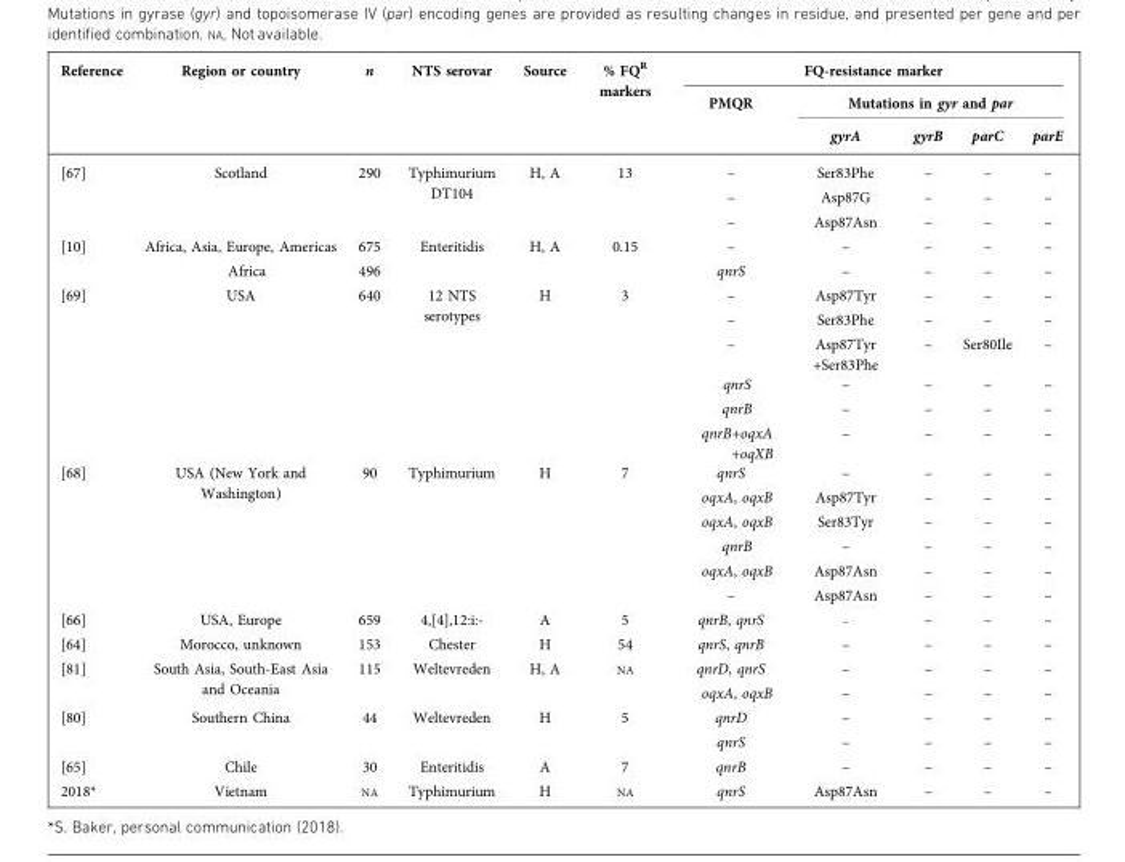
<table><thead><tr><td rowspan="3">Reference</td><td rowspan="3">Region or country</td><td rowspan="3">n</td><td rowspan="3">NTS serovar</td><td rowspan="3">Source</td><td rowspan="3">% FQ<sup>R</sup> markers</td><td colspan="5">FQ-resistance marker</td></tr><tr><td rowspan="2">PMQR</td><td colspan="4">Mutations in gyr and par</td></tr><tr><td>gyrA</td><td>gyrB</td><td>parC</td><td>parE</td></tr></thead><tbody><tr><td rowspan="3">[67]</td><td rowspan="3">Scotland</td><td rowspan="3">290</td><td rowspan="3">Typhimurium DT104</td><td rowspan="3">H, A</td><td rowspan="3">13</td><td>–</td><td>Ser83Phe</td><td>–</td><td>–</td><td>–</td></tr><tr><td>–</td><td>Asp87G</td><td>–</td><td>–</td><td>–</td></tr><tr><td>–</td><td>Asp87Asn</td><td>–</td><td>–</td><td>–</td></tr><tr><td rowspan="2">[10]</td><td>Africa, Asia, Europe, Americas</td><td>675</td><td rowspan="2">Enteritidis</td><td rowspan="2">H, A</td><td rowspan="2">0.15</td><td>–</td><td>–</td><td>–</td><td>–</td><td>–</td></tr><tr><td>Africa</td><td>496</td><td>qnrS</td><td>–</td><td>–</td><td>–</td><td>–</td></tr><tr><td rowspan="6">[69]</td><td rowspan="6">USA</td><td rowspan="6">640</td><td rowspan="6">12 NTS serotypes</td><td rowspan="6">H</td><td rowspan="6">3</td><td>–</td><td>Asp87Tyr</td><td>–</td><td>–</td><td>–</td></tr><tr><td>–</td><td>Ser83Phe</td><td>–</td><td>–</td><td>–</td></tr><tr><td>–</td><td>Asp87Tyr +Ser83Phe</td><td>–</td><td>Ser80Ile</td><td>–</td></tr><tr><td>qnrS</td><td>–</td><td>–</td><td>–</td><td>–</td></tr><tr><td>qnrB</td><td>–</td><td>–</td><td>–</td><td>–</td></tr><tr><td>qnrB+oqxA +oqXB</td><td>–</td><td>–</td><td>–</td><td>–</td></tr><tr><td rowspan="6">[68]</td><td rowspan="6">USA (New York and Washington)</td><td rowspan="6">90</td><td rowspan="6">Typhimurium</td><td rowspan="6">H</td><td rowspan="6">7</td><td>qnrS</td><td>–</td><td>–</td><td>–</td><td>–</td></tr><tr><td>oqxA, oqxB</td><td>Asp87Tyr</td><td>–</td><td>–</td><td>–</td></tr><tr><td>oqxA, oqxB</td><td>Ser83Tyr</td><td>–</td><td>–</td><td>–</td></tr><tr><td>qnrB</td><td>–</td><td>–</td><td>–</td><td>–</td></tr><tr><td>oqxA, oqxB</td><td>Asp87Asn</td><td>–</td><td>–</td><td>–</td></tr><tr><td>–</td><td>Asp87Asn</td><td>–</td><td>–</td><td>–</td></tr><tr><td>[66]</td><td>USA, Europe</td><td>659</td><td>4,[4],12:i:-</td><td>A</td><td>5</td><td>qnrB, qnrS</td><td>–</td><td>–</td><td>–</td><td>–</td></tr><tr><td>[64]</td><td>Morocco, unknown</td><td>153</td><td>Chester</td><td>H</td><td>54</td><td>qnrS, qnrB</td><td>–</td><td>–</td><td>–</td><td>–</td></tr><tr><td rowspan="2">[81]</td><td rowspan="2">South Asia, South-East Asia and Oceania</td><td rowspan="2">115</td><td rowspan="2">Weltevreden</td><td rowspan="2">H, A</td><td rowspan="2">NA</td><td>qnrD, qnrS</td><td>–</td><td>–</td><td>–</td><td>–</td></tr><tr><td>oqxA, oqxB</td><td>–</td><td>–</td><td>–</td><td>–</td></tr><tr><td rowspan="2">[80]</td><td rowspan="2">Southern China</td><td rowspan="2">44</td><td rowspan="2">Weltevreden</td><td rowspan="2">H</td><td rowspan="2">5</td><td>qnrD</td><td>–</td><td>–</td><td>–</td><td>–</td></tr><tr><td>qnrS</td><td>–</td><td>–</td><td>–</td><td>–</td></tr><tr><td>[65]</td><td>Chile</td><td>30</td><td>Enteritidis</td><td>A</td><td>7</td><td>qnrB</td><td>–</td><td>–</td><td>–</td><td>–</td></tr><tr><td>2018*</td><td>Vietnam</td><td>NA</td><td>Typhimurium</td><td>H</td><td>NA</td><td>qnrS</td><td>Asp87Asn</td><td>–</td><td>–</td><td>–</td></tr></tbody></table>